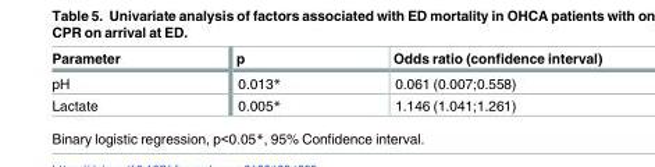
<table><thead><tr><td>Parameter</td><td>p</td><td>Odds ratio (confidence interval)</td></tr></thead><tbody><tr><td>pH</td><td>0.013*</td><td>0.061 (0.007;0.558)</td></tr><tr><td>Lactate</td><td>0.005*</td><td>1.146 (1.041;1.261)</td></tr></tbody></table>